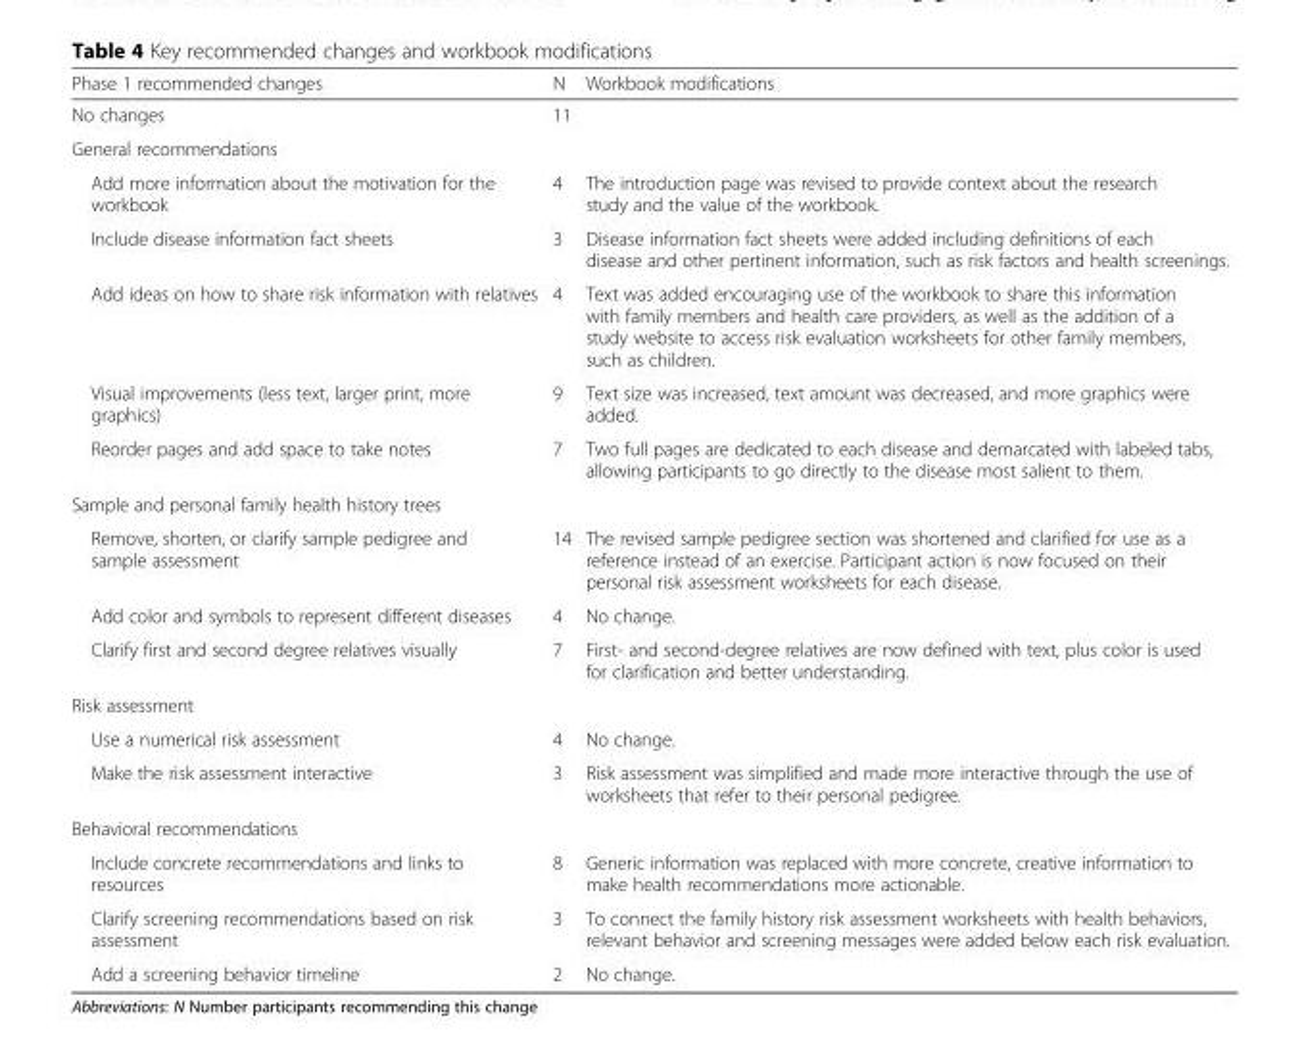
<table><thead><tr><td>Phase 1 recommended changes</td><td>N</td><td>Workbook modifications</td></tr></thead><tbody><tr><td>No changes</td><td>11</td><td></td></tr><tr><td colspan="3">General recommendations</td></tr><tr><td>Add more information about the motivation for the workbook</td><td>4</td><td>The introduction page was revised to provide context about the research study and the value of the workbook.</td></tr><tr><td>Include disease information fact sheets</td><td>3</td><td>Disease information fact sheets were added including definitions of each disease and other pertinent information, such as risk factors and health screenings.</td></tr><tr><td>Add ideas on how to share risk information with relatives</td><td>4</td><td>Text was added encouraging use of the workbook to share this information with family members and health care providers, as well as the addition of a study website to access risk evaluation worksheets for other family members, such as children.</td></tr><tr><td>Visual improvements (less text, larger print, more graphics)</td><td>9</td><td>Text size was increased, text amount was decreased, and more graphics were added.</td></tr><tr><td>Reorder pages and add space to take notes</td><td>7</td><td>Two full pages are dedicated to each disease and demarcated with labeled tabs, allowing participants to go directly to the disease most salient to them.</td></tr><tr><td colspan="3">Sample and personal family health history trees</td></tr><tr><td>Remove, shorten, or clarify sample pedigree and sample assessment</td><td>14</td><td>The revised sample pedigree section was shortened and clarified for use as a reference instead of an exercise. Participant action is now focused on their personal risk assessment worksheets for each disease.</td></tr><tr><td>Add color and symbols to represent different diseases</td><td>4</td><td>No change.</td></tr><tr><td>Clarify first and second degree relatives visually</td><td>7</td><td>First- and second-degree relatives are now defined with text, plus color is used for clarification and better understanding.</td></tr><tr><td colspan="3">Risk assessment</td></tr><tr><td>Use a numerical risk assessment</td><td>4</td><td>No change.</td></tr><tr><td>Make the risk assessment interactive</td><td>3</td><td>Risk assessment was simplified and made more interactive through the use of worksheets that refer to their personal pedigree.</td></tr><tr><td colspan="3">Behavioral recommendations</td></tr><tr><td>Include concrete recommendations and links to resources</td><td>8</td><td>Generic information was replaced with more concrete, creative information to make health recommendations more actionable.</td></tr><tr><td>Clarify screening recommendations based on risk assessment</td><td>3</td><td>To connect the family history risk assessment worksheets with health behaviors, relevant behavior and screening messages were added below each risk evaluation.</td></tr><tr><td>Add a screening behavior timeline</td><td>2</td><td>No change.</td></tr></tbody></table>